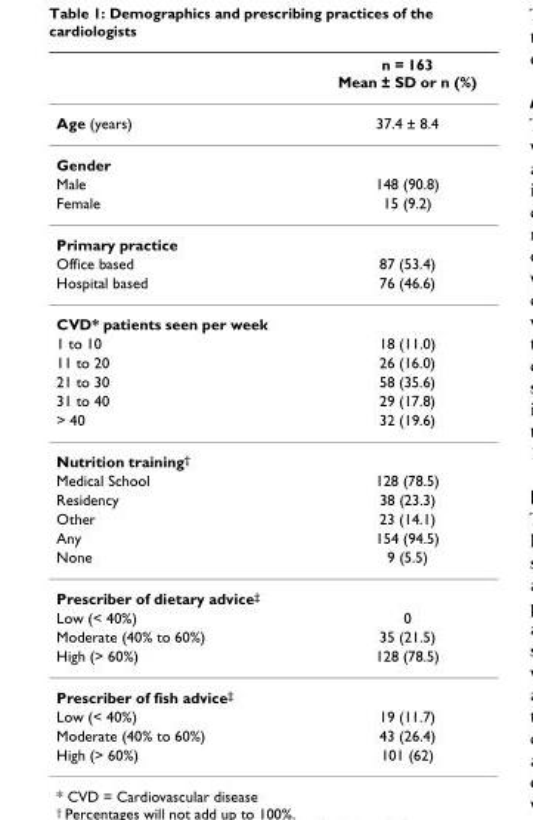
<table><thead><tr><td></td><td>n = 163 Mean ± SD or n (%)</td></tr></thead><tbody><tr><td>Age (years)</td><td>37.4 ± 8.4</td></tr><tr><td colspan="2">Gender</td></tr><tr><td>Male</td><td>148 (90.8)</td></tr><tr><td>Female</td><td>15 (9.2)</td></tr><tr><td colspan="2">Primary practice</td></tr><tr><td>Office based</td><td>87 (53.4)</td></tr><tr><td>Hospital based</td><td>76 (46.6)</td></tr><tr><td colspan="2">CVD* patients seen per week</td></tr><tr><td>1 to 10</td><td>18 (11.0)</td></tr><tr><td>11 to 20</td><td>26 (16.0)</td></tr><tr><td>21 to 30</td><td>58 (35.6)</td></tr><tr><td>31 to 40</td><td>29 (17.8)</td></tr><tr><td>&gt; 40</td><td>32 (19.6)</td></tr><tr><td colspan="2">Nutrition training<sup>†</sup></td></tr><tr><td>Medical School</td><td>128 (78.5)</td></tr><tr><td>Residency</td><td>38 (23.3)</td></tr><tr><td>Other</td><td>23 (14.1)</td></tr><tr><td>Any</td><td>154 (94.5)</td></tr><tr><td>None</td><td>9 (5.5)</td></tr><tr><td colspan="2">Prescriber of dietary advice<sup>‡</sup></td></tr><tr><td>Low (&lt; 40%)</td><td>0</td></tr><tr><td>Moderate (40% to 60%)</td><td>35 (21.5)</td></tr><tr><td>High (&gt; 60%)</td><td>128 (78.5)</td></tr><tr><td colspan="2">Prescriber of fish advice<sup>‡</sup></td></tr><tr><td>Low (&lt; 40%)</td><td>19 (11.7)</td></tr><tr><td>Moderate (40% to 60%)</td><td>43 (26.4)</td></tr><tr><td>High (&gt; 60%)</td><td>101 (62)</td></tr></tbody></table>